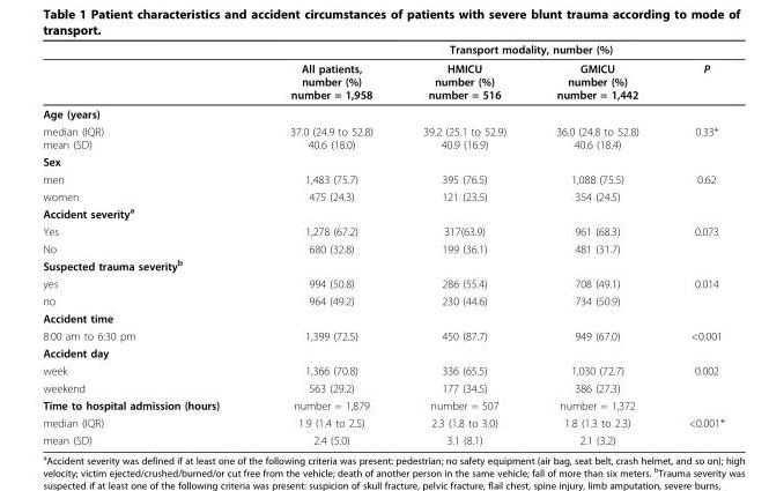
<table><thead><tr><td rowspan="2"></td><td rowspan="2">All patients, number (%) number = 1,958</td><td colspan="2">Transport modality, number (%)</td><td rowspan="2">P</td></tr><tr><td>HMICU number (%) number = 516</td><td>GMICU number (%) number = 1,442</td></tr></thead><tbody><tr><td colspan="5">Age (years)</td></tr><tr><td>median (IQR) mean (SD)</td><td>37.0 (24.9 to 52.8) 40.6 (18.0)</td><td>39.2 (25.1 to 52.9) 40.9 (16.9)</td><td>36.0 (24.8 to 52.8) 40.6 (18.4)</td><td>0.33*</td></tr><tr><td colspan="5">Sex</td></tr><tr><td>men</td><td>1,483 (75.7)</td><td>395 (76.5)</td><td>1,088 (75.5)</td><td>0.62</td></tr><tr><td>women</td><td>475 (24.3)</td><td>121 (23.5)</td><td>354 (24.5)</td><td></td></tr><tr><td colspan="5">Accident severity<sup>a</sup></td></tr><tr><td>Yes</td><td>1,278 (67.2)</td><td>317(63.9)</td><td>961 (68.3)</td><td>0.073</td></tr><tr><td>No</td><td>680 (32.8)</td><td>199 (36.1)</td><td>481 (31.7)</td><td></td></tr><tr><td colspan="5">Suspected trauma severity<sup>b</sup></td></tr><tr><td>yes</td><td>994 (50.8)</td><td>286 (55.4)</td><td>708 (49.1)</td><td>0.014</td></tr><tr><td>no</td><td>964 (49.2)</td><td>230 (44.6)</td><td>734 (50.9)</td><td></td></tr><tr><td colspan="5">Accident time</td></tr><tr><td>8:00 am to 6:30 pm</td><td>1,399 (72.5)</td><td>450 (87.7)</td><td>949 (67.0)</td><td>&lt;0.001</td></tr><tr><td colspan="5">Accident day</td></tr><tr><td>week</td><td>1,366 (70.8)</td><td>336 (65.5)</td><td>1,030 (72.7)</td><td>0.002</td></tr><tr><td>weekend</td><td>563 (29.2)</td><td>177 (34.5)</td><td>386 (27.3)</td><td></td></tr><tr><td>Time to hospital admission (hours)</td><td>number = 1,879</td><td>number = 507</td><td>number = 1,372</td><td></td></tr><tr><td>median (IQR)</td><td>1.9 (1.4 to 2.5)</td><td>2.3 (1.8 to 3.0)</td><td>1.8 (1.3 to 2.3)</td><td>&lt;0.001*</td></tr><tr><td>mean (SD)</td><td>2.4 (5.0)</td><td>3.1 (8.1)</td><td>2.1 (3.2)</td><td></td></tr></tbody></table>